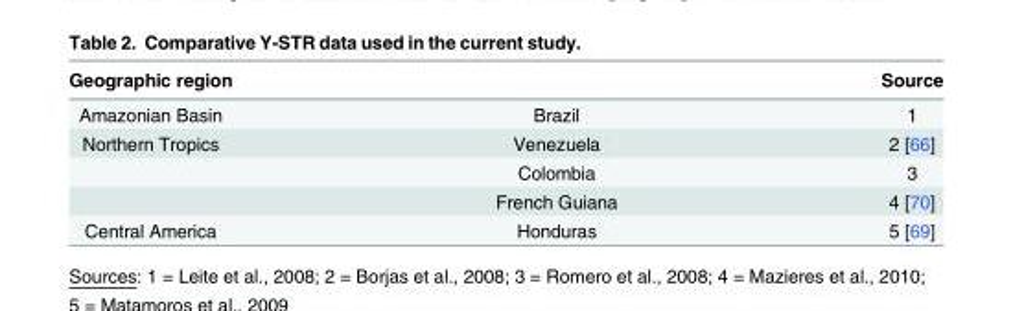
<table><thead><tr><td>Geographic region</td><td></td><td>Source</td></tr></thead><tbody><tr><td>Amazonian Basin</td><td>Brazil</td><td>1</td></tr><tr><td rowspan="3">Northern Tropics</td><td>Venezuela</td><td>2 [66]</td></tr><tr><td>Colombia</td><td>3</td></tr><tr><td>French Guiana</td><td>4 [70]</td></tr><tr><td>Central America</td><td>Honduras</td><td>5 [69]</td></tr></tbody></table>